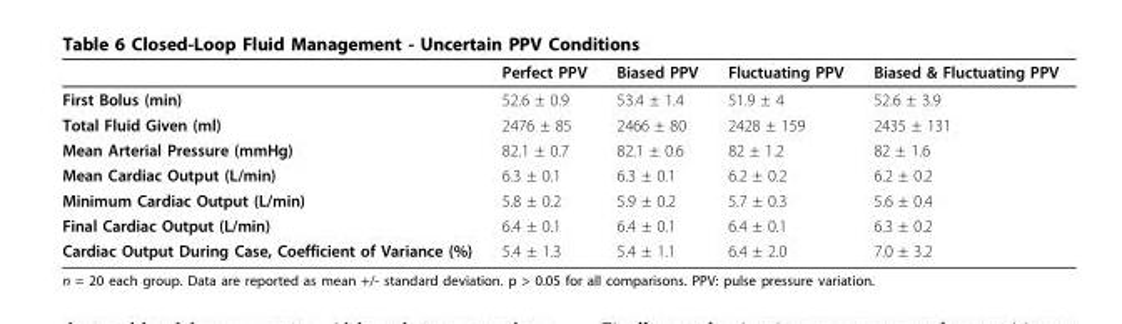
<table><thead><tr><td></td><td>Perfect PPV</td><td>Biased PPV</td><td>Fluctuating PPV</td><td>Biased &amp; Fluctuating PPV</td></tr></thead><tbody><tr><td>First Bolus (min)</td><td>52.6 ± 0.9</td><td>53.4 ± 1.4</td><td>51.9 ± 4</td><td>52.6 ± 3.9</td></tr><tr><td>Total Fluid Given (ml)</td><td>2476 ± 85</td><td>2466 ± 80</td><td>2428 ± 159</td><td>2435 ± 131</td></tr><tr><td>Mean Arterial Pressure (mmHg)</td><td>82.1 ± 0.7</td><td>82.1 ± 0.6</td><td>82 ± 1.2</td><td>82 ± 1.6</td></tr><tr><td>Mean Cardiac Output (L/min)</td><td>6.3 ± 0.1</td><td>6.3 ± 0.1</td><td>6.2 ± 0.2</td><td>6.2 ± 0.2</td></tr><tr><td>Minimum Cardiac Output (L/min)</td><td>5.8 ± 0.2</td><td>5.9 ± 0.2</td><td>5.7 ± 0.3</td><td>5.6 ± 0.4</td></tr><tr><td>Final Cardiac Output (L/min)</td><td>6.4 ± 0.1</td><td>6.4 ± 0.1</td><td>6.4 ± 0.1</td><td>6.3 ± 0.2</td></tr><tr><td>Cardiac Output During Case, Coefficient of Variance (%)</td><td>5.4 ± 1.3</td><td>5.4 ± 1.1</td><td>6.4 ± 2.0</td><td>7.0 ± 3.2</td></tr></tbody></table>